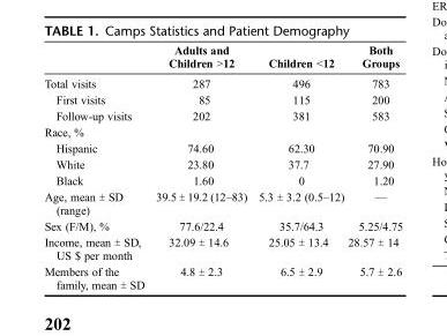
<table><thead><tr><td></td><td>Adults and Children &gt;12</td><td>Children &lt;12</td><td>Both Groups</td></tr></thead><tbody><tr><td>Total visits</td><td>287</td><td>496</td><td>783</td></tr><tr><td>First visits</td><td>85</td><td>115</td><td>200</td></tr><tr><td>Follow-up visits</td><td>202</td><td>381</td><td>583</td></tr><tr><td colspan="4">Race, %</td></tr><tr><td>Hispanic</td><td>74.60</td><td>62.30</td><td>70.90</td></tr><tr><td>White</td><td>23.80</td><td>37.7</td><td>27.90</td></tr><tr><td>Black</td><td>1.60</td><td>0</td><td>1.20</td></tr><tr><td>Age, mean ± SD (range)</td><td>39.5 T 19.2 (12Y83)</td><td>5.3 T 3.2 (0.5Y12)</td><td>V</td></tr><tr><td>Sex (F/M), %</td><td>77.6/22.4</td><td>35.7/64.3</td><td>5.25/4.75</td></tr><tr><td>Income, mean ± SD, US $ per month</td><td>32.09 ± 14.6</td><td>25.05 ± 13.4</td><td>28.57 ± 14</td></tr><tr><td>Members of the family, mean ± SD</td><td>4.8 ± 2.3</td><td>6.5 ± 2.9</td><td>5.7 ± 2.6</td></tr></tbody></table>